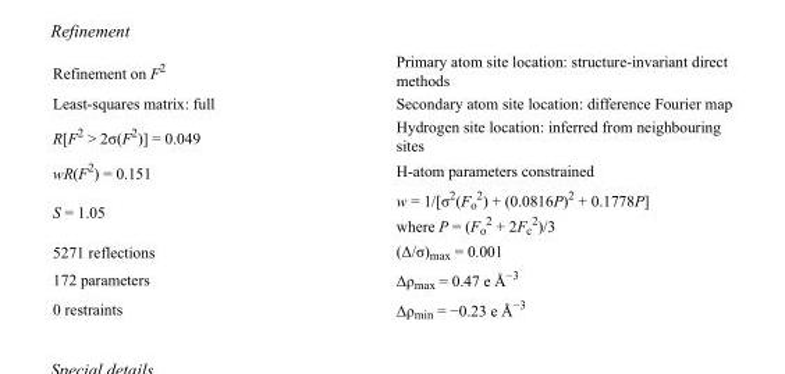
<table><tbody><tr><td>Refinement on F<sup>2</sup></td><td>Primary atom site location: structure-invariant direct methods</td></tr><tr><td>Least-squares matrix: full</td><td>Secondary atom site location: difference Fourier map</td></tr><tr><td>R[F<sup>2</sup> &gt; 2σ(F<sup>2</sup>)] = 0.049</td><td>Hydrogen site location: inferred from neighbouring sites</td></tr><tr><td>wR(F<sup>2</sup>) = 0.151</td><td>H-atom parameters constrained</td></tr><tr><td>S = 1.05</td><td>w = 1/[σ<sup>2</sup>(F<sub>o</sub> <sup>2</sup>) + (0.0816P)<sup>2</sup> + 0.1778P] where P = (F<sub>o</sub> <sup>2</sup> + 2F<sub>c</sub> <sup>2</sup>)/3</td></tr><tr><td>5271 reflections</td><td>(Δ/σ)<sub>max</sub> = 0.001</td></tr><tr><td>172 parameters</td><td>Δρ<sub>max</sub> = 0.47 e Å<sup>−3</sup></td></tr><tr><td>0 restraints</td><td>Δρ<sub>min</sub> = −0.23 e Å<sup>−3</sup></td></tr></tbody></table>